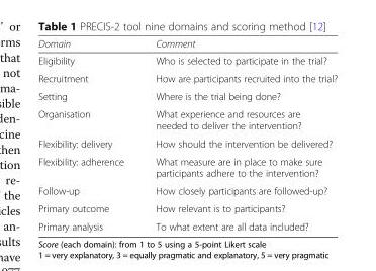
<table><thead><tr><td>Domain</td><td>Comment</td></tr></thead><tbody><tr><td>Eligibility</td><td>Who is selected to participate in the trial?</td></tr><tr><td>Recruitment</td><td>How are participants recruited into the trial?</td></tr><tr><td>Setting</td><td>Where is the trial being done?</td></tr><tr><td>Organisation</td><td>What experience and resources are needed to deliver the intervention?</td></tr><tr><td>Flexibility: delivery</td><td>How should the intervention be delivered?</td></tr><tr><td>Flexibility: adherence</td><td>What measure are in place to make sure participants adhere to the intervention?</td></tr><tr><td>Follow-up</td><td>How closely participants are followed-up?</td></tr><tr><td>Primary outcome</td><td>How relevant is to participants?</td></tr><tr><td>Primary analysis</td><td>To what extent are all data included?</td></tr></tbody></table>